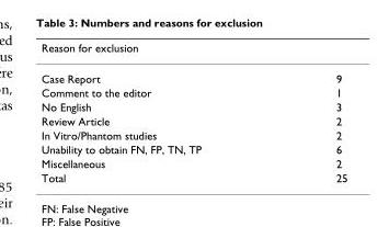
<table><thead><tr><td>Reason for exclusion</td><td></td></tr></thead><tbody><tr><td>Case Report</td><td>9</td></tr><tr><td>Comment to the editor</td><td>1</td></tr><tr><td>No English</td><td>3</td></tr><tr><td>Review Article</td><td>2</td></tr><tr><td>In Vitro/Phantom studies</td><td>2</td></tr><tr><td>Unability to obtain FN, FP, TN, TP</td><td>6</td></tr><tr><td>Miscellaneous</td><td>2</td></tr><tr><td>Total</td><td>25</td></tr></tbody></table>